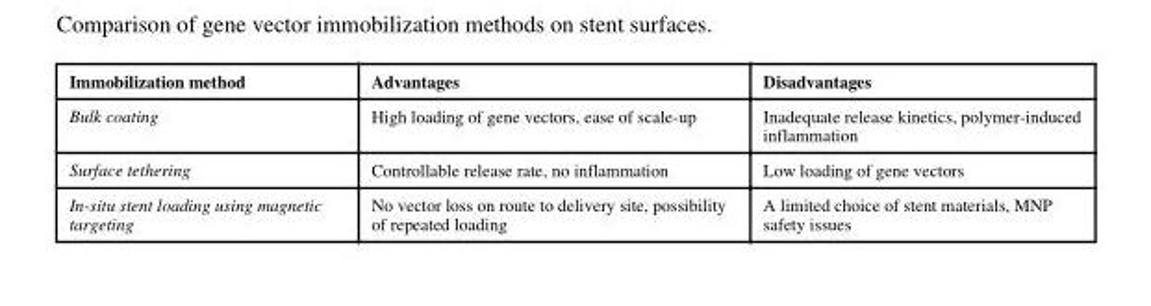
<table><thead><tr><td>Immobilization method</td><td>Advantages</td><td>Disadvantages</td></tr></thead><tbody><tr><td>Bulk coating</td><td>High loading of gene vectors, ease of scale-up</td><td>Inadequate release kinetics, polymer-induced inflammation</td></tr><tr><td>Surface tethering</td><td>Controllable release rate, no inflammation</td><td>Low loading of gene vectors</td></tr><tr><td>In-situ stent loading using magnetic targeting</td><td>No vector loss on route to delivery site, possibility of repeated loading</td><td>A limited choice of stent materials, MNP safety issues</td></tr></tbody></table>